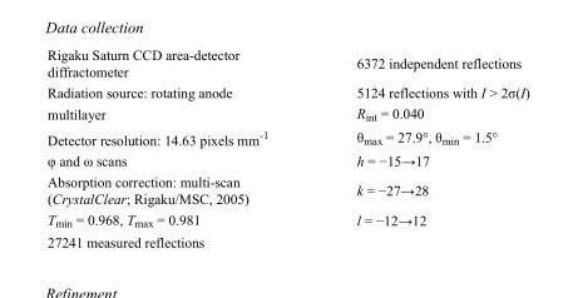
<table><tbody><tr><td>Rigaku Saturn CCD area-detector diffractometer</td><td>6372 independent reflections</td></tr><tr><td>Radiation source: rotating anode</td><td>5124 reflections with I &gt; 2σ(I)</td></tr><tr><td>multilayer</td><td>R<sub>int</sub> = 0.040</td></tr><tr><td>Detector resolution: 14.63 pixels mm<sup>-1</sup></td><td>θ<sub>max</sub> = 27.9°, θ<sub>min</sub> = 1.5°</td></tr><tr><td>φ and ω scans</td><td>h = −15→17</td></tr><tr><td>Absorption correction: multi-scan (CrystalClear; Rigaku/MSC, 2005)</td><td>k = −27→28</td></tr><tr><td>T<sub>min</sub> = 0.968, T<sub>max</sub> = 0.981</td><td>l = −12→12</td></tr><tr><td>27241 measured reflections</td><td></td></tr></tbody></table>